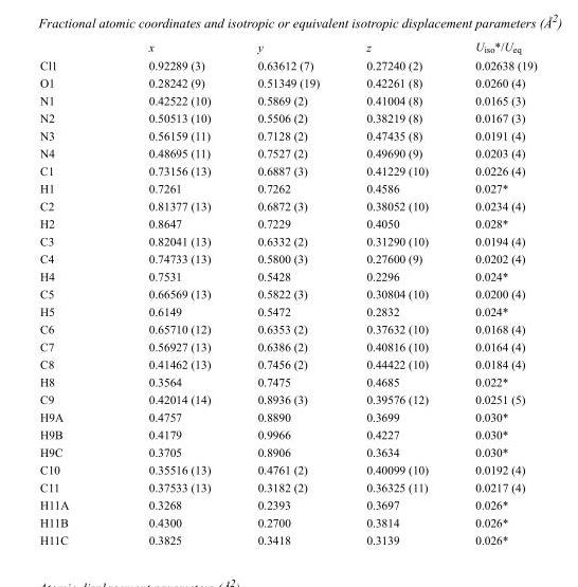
<table><thead><tr><td></td><td>x</td><td>y</td><td>z</td><td>U<sub>iso</sub>*/U<sub>eq</sub></td></tr></thead><tbody><tr><td>Cl1</td><td>0.92289 (3)</td><td>0.63612 (7)</td><td>0.27240 (2)</td><td>0.02638 (19)</td></tr><tr><td>O1</td><td>0.28242 (9)</td><td>0.51349 (19)</td><td>0.42261 (8)</td><td>0.0260 (4)</td></tr><tr><td>N1</td><td>0.42522 (10)</td><td>0.5869 (2)</td><td>0.41004 (8)</td><td>0.0165 (3)</td></tr><tr><td>N2</td><td>0.50513 (10)</td><td>0.5506 (2)</td><td>0.38219 (8)</td><td>0.0167 (3)</td></tr><tr><td>N3</td><td>0.56159 (11)</td><td>0.7128 (2)</td><td>0.47435 (8)</td><td>0.0191 (4)</td></tr><tr><td>N4</td><td>0.48695 (11)</td><td>0.7527 (2)</td><td>0.49690 (9)</td><td>0.0203 (4)</td></tr><tr><td>C1</td><td>0.73156 (13)</td><td>0.6887 (3)</td><td>0.41229 (10)</td><td>0.0226 (4)</td></tr><tr><td>H1</td><td>0.7261</td><td>0.7262</td><td>0.4586</td><td>0.027*</td></tr><tr><td>C2</td><td>0.81377 (13)</td><td>0.6872 (3)</td><td>0.38052 (10)</td><td>0.0234 (4)</td></tr><tr><td>H2</td><td>0.8647</td><td>0.7229</td><td>0.4050</td><td>0.028*</td></tr><tr><td>C3</td><td>0.82041 (13)</td><td>0.6332 (2)</td><td>0.31290 (10)</td><td>0.0194 (4)</td></tr><tr><td>C4</td><td>0.74733 (13)</td><td>0.5800 (3)</td><td>0.27600 (9)</td><td>0.0202 (4)</td></tr><tr><td>H4</td><td>0.7531</td><td>0.5428</td><td>0.2296</td><td>0.024*</td></tr><tr><td>C5</td><td>0.66569 (13)</td><td>0.5822 (3)</td><td>0.30804 (10)</td><td>0.0200 (4)</td></tr><tr><td>H5</td><td>0.6149</td><td>0.5472</td><td>0.2832</td><td>0.024*</td></tr><tr><td>C6</td><td>0.65710 (12)</td><td>0.6353 (2)</td><td>0.37632 (10)</td><td>0.0168 (4)</td></tr><tr><td>C7</td><td>0.56927 (13)</td><td>0.6386 (2)</td><td>0.40816 (10)</td><td>0.0164 (4)</td></tr><tr><td>C8</td><td>0.41462 (13)</td><td>0.7456 (2)</td><td>0.44422 (10)</td><td>0.0184 (4)</td></tr><tr><td>H8</td><td>0.3564</td><td>0.7475</td><td>0.4685</td><td>0.022*</td></tr><tr><td>C9</td><td>0.42014 (14)</td><td>0.8936 (3)</td><td>0.39576 (12)</td><td>0.0251 (5)</td></tr><tr><td>H9A</td><td>0.4757</td><td>0.8890</td><td>0.3699</td><td>0.030*</td></tr><tr><td>H9B</td><td>0.4179</td><td>0.9966</td><td>0.4227</td><td>0.030*</td></tr><tr><td>H9C</td><td>0.3705</td><td>0.8906</td><td>0.3634</td><td>0.030*</td></tr><tr><td>C10</td><td>0.35516 (13)</td><td>0.4761 (2)</td><td>0.40099 (10)</td><td>0.0192 (4)</td></tr><tr><td>C11</td><td>0.37533 (13)</td><td>0.3182 (2)</td><td>0.36325 (11)</td><td>0.0217 (4)</td></tr><tr><td>H11A</td><td>0.3268</td><td>0.2393</td><td>0.3697</td><td>0.026*</td></tr><tr><td>H11B</td><td>0.4300</td><td>0.2700</td><td>0.3814</td><td>0.026*</td></tr><tr><td>H11C</td><td>0.3825</td><td>0.3418</td><td>0.3139</td><td>0.026*</td></tr></tbody></table>